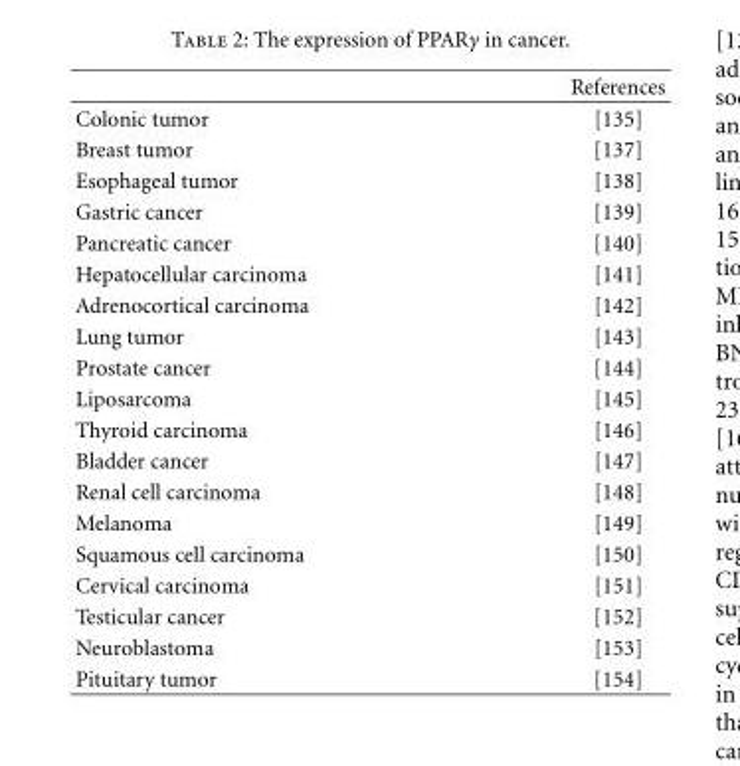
<table><thead><tr><td></td><td>References</td></tr></thead><tbody><tr><td>Colonic tumor</td><td>[135]</td></tr><tr><td>Breast tumor</td><td>[137]</td></tr><tr><td>Esophageal tumor</td><td>[138]</td></tr><tr><td>Gastric cancer</td><td>[139]</td></tr><tr><td>Pancreatic cancer</td><td>[140]</td></tr><tr><td>Hepatocellular carcinoma</td><td>[141]</td></tr><tr><td>Adrenocortical carcinoma</td><td>[142]</td></tr><tr><td>Lung tumor</td><td>[143]</td></tr><tr><td>Prostate cancer</td><td>[144]</td></tr><tr><td>Liposarcoma</td><td>[145]</td></tr><tr><td>Thyroid carcinoma</td><td>[146]</td></tr><tr><td>Bladder cancer</td><td>[147]</td></tr><tr><td>Renal cell carcinoma</td><td>[148]</td></tr><tr><td>Melanoma</td><td>[149]</td></tr><tr><td>Squamous cell carcinoma</td><td>[150]</td></tr><tr><td>Cervical carcinoma</td><td>[151]</td></tr><tr><td>Testicular cancer</td><td>[152]</td></tr><tr><td>Neuroblastoma</td><td>[153]</td></tr><tr><td>Pituitary tumor</td><td>[154]</td></tr></tbody></table>